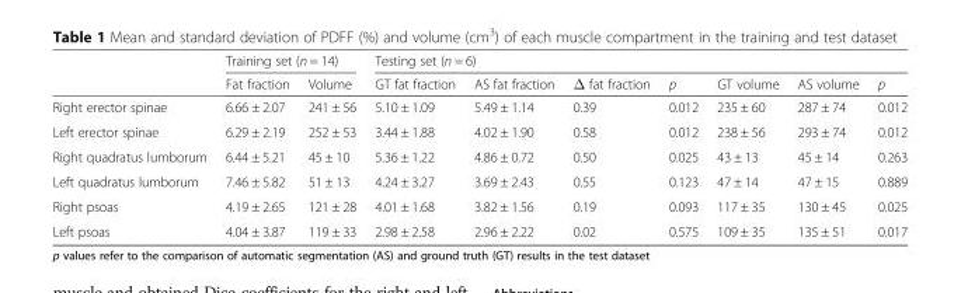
<table><thead><tr><td rowspan="2"></td><td colspan="2">Training set (n = 14)</td><td colspan="7">Testing set (n = 6)</td></tr><tr><td>Fat fraction</td><td>Volume</td><td>GT fat fraction</td><td>AS fat fraction</td><td>Δ fat fraction</td><td>p</td><td>GT volume</td><td>AS volume</td><td>p</td></tr></thead><tbody><tr><td>Right erector spinae</td><td>6.66 ± 2.07</td><td>241 ± 56</td><td>5.10 ± 1.09</td><td>5.49 ± 1.14</td><td>0.39</td><td>0.012</td><td>235 ± 60</td><td>287 ± 74</td><td>0.012</td></tr><tr><td>Left erector spinae</td><td>6.29 ± 2.19</td><td>252 ± 53</td><td>3.44 ± 1.88</td><td>4.02 ± 1.90</td><td>0.58</td><td>0.012</td><td>238 ± 56</td><td>293 ± 74</td><td>0.012</td></tr><tr><td>Right quadratus lumborum</td><td>6.44 ± 5.21</td><td>45 ± 10</td><td>5.36 ± 1.22</td><td>4.86 ± 0.72</td><td>0.50</td><td>0.025</td><td>43 ± 13</td><td>45 ± 14</td><td>0.263</td></tr><tr><td>Left quadratus lumborum</td><td>7.46 ± 5.82</td><td>51 ± 13</td><td>4.24 ± 3.27</td><td>3.69 ± 2.43</td><td>0.55</td><td>0.123</td><td>47 ± 14</td><td>47 ± 15</td><td>0.889</td></tr><tr><td>Right psoas</td><td>4.19 ± 2.65</td><td>121 ± 28</td><td>4.01 ± 1.68</td><td>3.82 ± 1.56</td><td>0.19</td><td>0.093</td><td>117 ± 35</td><td>130 ± 45</td><td>0.025</td></tr><tr><td>Left psoas</td><td>4.04 ± 3.87</td><td>119 ± 33</td><td>2.98 ± 2.58</td><td>2.96 ± 2.22</td><td>0.02</td><td>0.575</td><td>109 ± 35</td><td>135 ± 51</td><td>0.017</td></tr></tbody></table>